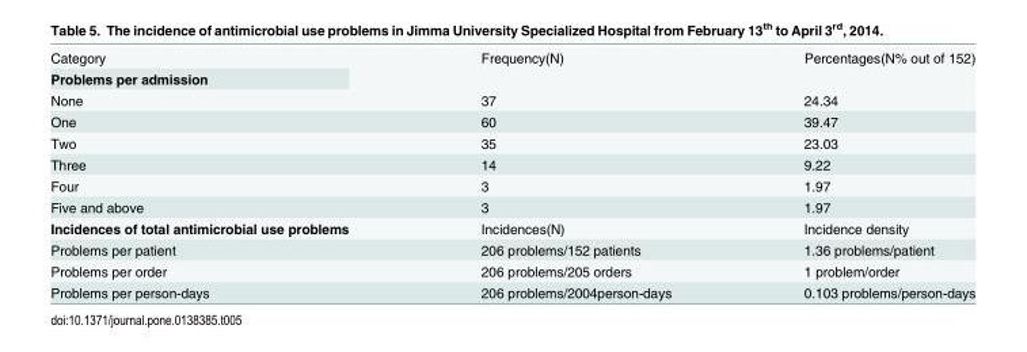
<table><tbody><tr><td>Category</td><td rowspan="2">Frequency(N)</td><td rowspan="2">Percentages(N% out of 152)</td></tr><tr><td>Problems per admission</td></tr><tr><td>None</td><td>37</td><td>24.34</td></tr><tr><td>One</td><td>60</td><td>39.47</td></tr><tr><td>Two</td><td>35</td><td>23.03</td></tr><tr><td>Three</td><td>14</td><td>9.22</td></tr><tr><td>Four</td><td>3</td><td>1.97</td></tr><tr><td>Five and above</td><td>3</td><td>1.97</td></tr><tr><td>Incidences of total antimicrobial use problems</td><td>Incidences(N)</td><td>Incidence density</td></tr><tr><td>Problems per patient</td><td>206 problems/152 patients</td><td>1.36 problems/patient</td></tr><tr><td>Problems per order</td><td>206 problems/205 orders</td><td>1 problem/order</td></tr><tr><td>Problems per person-days</td><td>206 problems/2004person-days</td><td>0.103 problems/person-days</td></tr></tbody></table>